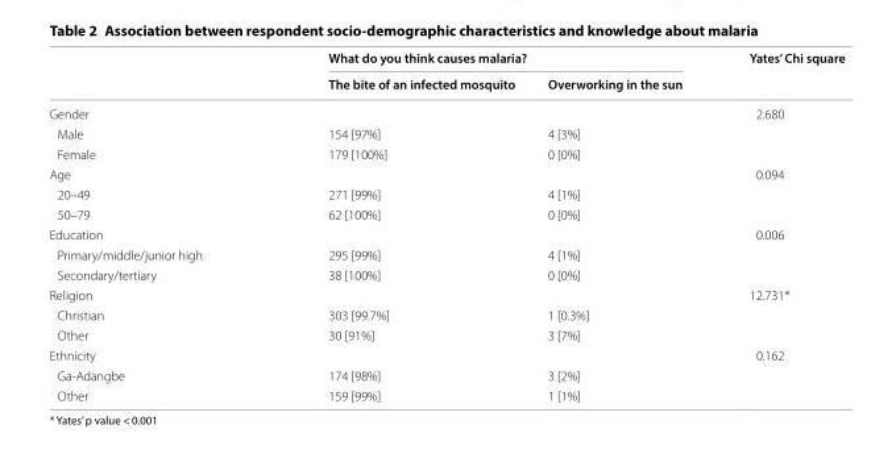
<table><thead><tr><td rowspan="2"></td><td colspan="2">What do you think causes malaria?</td><td rowspan="2">Yates’ Chi square</td></tr><tr><td>The bite of an infected mosquito</td><td>Overworking in the sun</td></tr></thead><tbody><tr><td colspan="3">Gender</td><td>2.680</td></tr><tr><td>Male</td><td>154 [97%]</td><td>4 [3%]</td><td></td></tr><tr><td>Female</td><td>179 [100%]</td><td>0 [0%]</td><td></td></tr><tr><td colspan="3">Age</td><td>0.094</td></tr><tr><td>20–49</td><td>271 [99%]</td><td>4 [1%]</td><td></td></tr><tr><td>50–79</td><td>62 [100%]</td><td>0 [0%]</td><td></td></tr><tr><td colspan="3">Education</td><td>0.006</td></tr><tr><td>Primary/middle/junior high</td><td>295 [99%]</td><td>4 [1%]</td><td></td></tr><tr><td>Secondary/tertiary</td><td>38 [100%]</td><td>0 [0%]</td><td></td></tr><tr><td colspan="3">Religion</td><td>12.731*</td></tr><tr><td>Christian</td><td>303 [99.7%]</td><td>1 [0.3%]</td><td></td></tr><tr><td>Other</td><td>30 [91%]</td><td>3 [7%]</td><td></td></tr><tr><td colspan="3">Ethnicity</td><td>0.162</td></tr><tr><td>Ga-Adangbe</td><td>174 [98%]</td><td>3 [2%]</td><td></td></tr><tr><td>Other</td><td>159 [99%]</td><td>1 [1%]</td><td></td></tr></tbody></table>